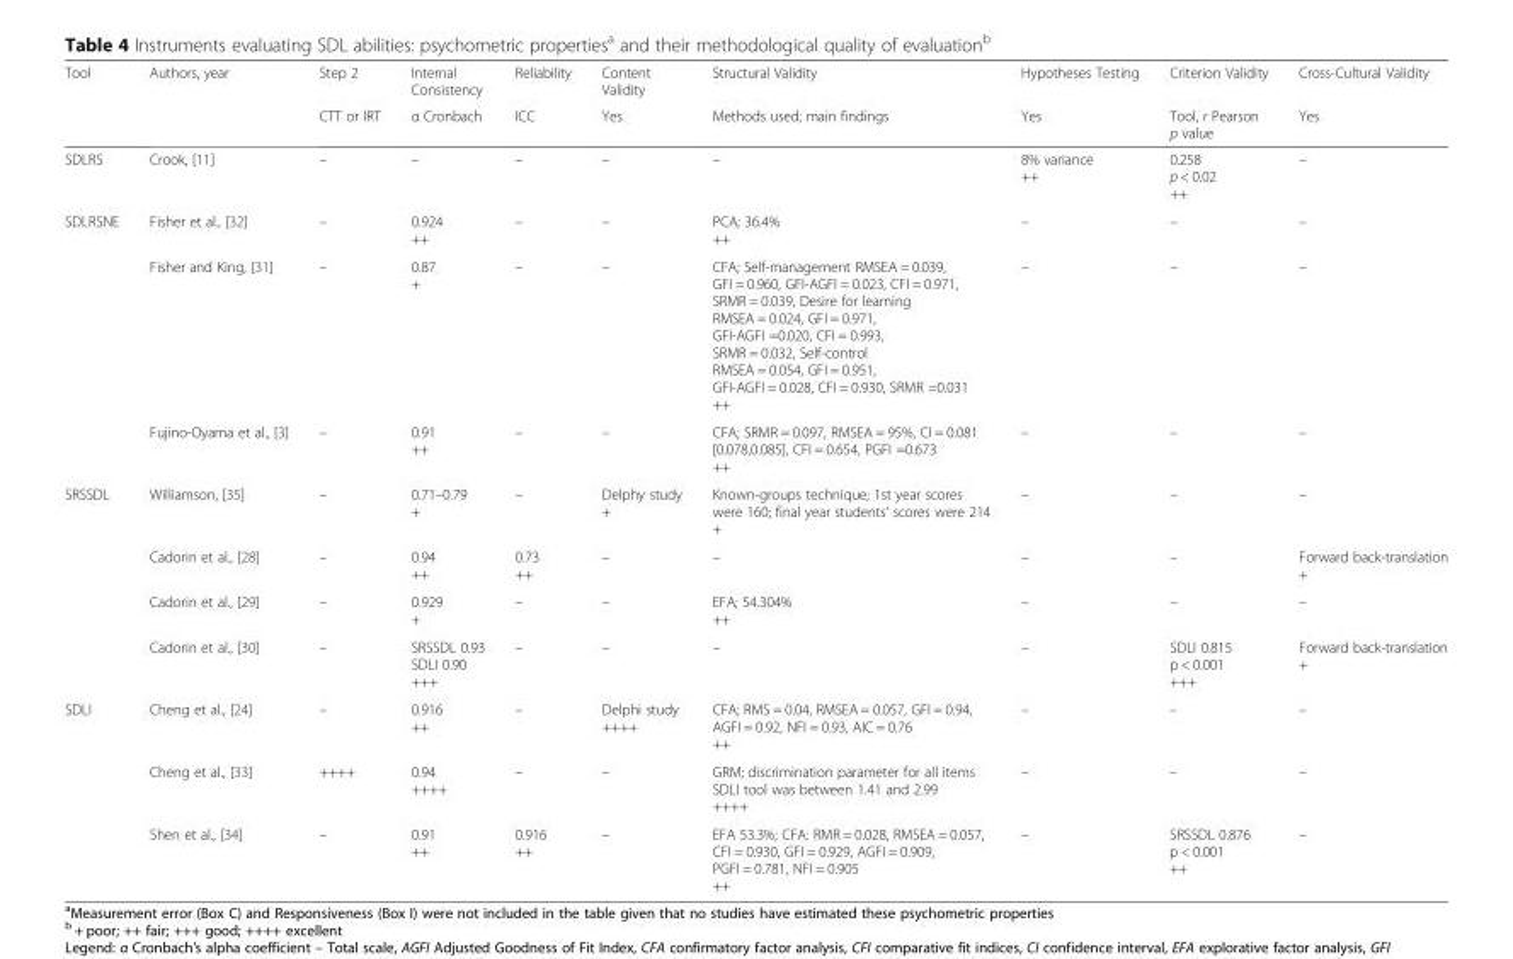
<table><thead><tr><td rowspan="2">Tool</td><td rowspan="2">Authors, year</td><td rowspan="2">Step 2 CTT or IRT</td><td rowspan="2">Internal Consistency α Cronbach</td><td rowspan="2">Reliability ICC</td><td rowspan="2">Content Validity Yes</td><td rowspan="2">Structural Validity Methods used; main findings</td><td rowspan="2">Hypotheses Testing Yes</td><td rowspan="2">Criterion Validity Tool, r Pearson p value</td><td rowspan="2">Cross-Cultural Validity Yes</td></tr><tr></tr></thead><tbody><tr><td>SDLRS</td><td>Crook, [11]</td><td>–</td><td>–</td><td>–</td><td>–</td><td>–</td><td>8% variance ++</td><td>0.258 p &lt; 0.02 ++</td><td>–</td></tr><tr><td rowspan="3">SDLRSNE</td><td>Fisher et al., [32]</td><td>–</td><td>0.924 ++</td><td>–</td><td>–</td><td>PCA; 36.4% ++</td><td>–</td><td>–</td><td>–</td></tr><tr><td>Fisher and King, [31]</td><td>–</td><td>0.87 +</td><td>–</td><td>–</td><td>CFA; Self-management RMSEA = 0.039, GFI = 0.960, GFI-AGFI = 0.023, CFI = 0.971, SRMR = 0.039, Desire for learning RMSEA = 0.024, GFI = 0.971, GFI-AGFI =0.020, CFI = 0.993, SRMR = 0.032, Self-control RMSEA = 0.054, GFI = 0.951, GFI-AGFI = 0.028, CFI = 0.930, SRMR =0.031 ++</td><td>–</td><td>–</td><td>–</td></tr><tr><td>Fujino-Oyama et al., [3]</td><td>–</td><td>0.91 ++</td><td>–</td><td>–</td><td>CFA; SRMR = 0.097, RMSEA = 95%, CI = 0.081 [0.078,0.085], CFI = 0.654, PGFI =0.673 ++</td><td>–</td><td>–</td><td>–</td></tr><tr><td rowspan="4">SRSSDL</td><td>Williamson, [35]</td><td>–</td><td>0.71–0.79 +</td><td>–</td><td>Delphy study +</td><td>Known-groups technique; 1st year scores were 160; final year students’ scores were 214 +</td><td>–</td><td>–</td><td>–</td></tr><tr><td>Cadorin et al., [28]</td><td>–</td><td>0.94 ++</td><td>0.73 ++</td><td>–</td><td>–</td><td>–</td><td>–</td><td>Forward back-translation +</td></tr><tr><td>Cadorin et al., [29]</td><td>–</td><td>0.929 +</td><td>–</td><td>–</td><td>EFA; 54.304% ++</td><td>–</td><td>–</td><td>–</td></tr><tr><td>Cadorin et al., [30]</td><td>–</td><td>SRSSDL 0.93 SDLI 0.90 +++</td><td>–</td><td>–</td><td>–</td><td>–</td><td>SDLI 0.815 p &lt; 0.001 +++</td><td>Forward back-translation +</td></tr><tr><td rowspan="3">SDLI</td><td>Cheng et al., [24]</td><td>–</td><td>0.916 ++</td><td>–</td><td>Delphi study ++++</td><td>CFA; RMS = 0.04, RMSEA = 0.057, GFI = 0.94, AGFI = 0.92, NFI = 0.93, AIC = 0.76 ++</td><td>–</td><td>–</td><td>–</td></tr><tr><td>Cheng et al., [33]</td><td>++++</td><td>0.94 ++++</td><td>–</td><td>–</td><td>GRM; discrimination parameter for all items SDLI tool was between 1.41 and 2.99 ++++</td><td>–</td><td>–</td><td>–</td></tr><tr><td>Shen et al., [34]</td><td>–</td><td>0.91 ++</td><td>0.916 ++</td><td>–</td><td>EFA 53.3%; CFA: RMR = 0.028, RMSEA = 0.057, CFI = 0.930, GFI = 0.929, AGFI = 0.909, PGFI = 0.781, NFI = 0.905 ++</td><td>–</td><td>SRSSDL 0.876 p &lt; 0.001 ++</td><td>–</td></tr></tbody></table>